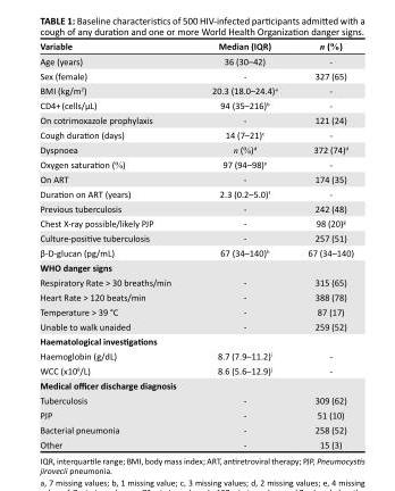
<table><thead><tr><td>Variable</td><td>Median (IQR)</td><td>n (%)</td></tr></thead><tbody><tr><td>Age (years)</td><td>36 (30–42)</td><td>-</td></tr><tr><td>Sex (female)</td><td>-</td><td>327 (65)</td></tr><tr><td>BMI (kg/m<sup>2</sup>)</td><td>20.3 (18.0–24.4)<sup>a</sup></td><td>-</td></tr><tr><td>CD4+ (cells/µL)</td><td>94 (35–216)<sup>b</sup></td><td>-</td></tr><tr><td>On cotrimoxazole prophylaxis</td><td>-</td><td>121 (24)</td></tr><tr><td>Cough duration (days)</td><td>14 (7–21)<sup>c</sup></td><td>-</td></tr><tr><td>Dyspnoea</td><td>n (%)<sup>d</sup></td><td>372 (74)<sup>d</sup></td></tr><tr><td>Oxygen saturation (%)</td><td>97 (94–98)<sup>e</sup></td><td>-</td></tr><tr><td>On ART</td><td>-</td><td>174 (35)</td></tr><tr><td>Duration on ART (years)</td><td>2.3 (0.2–5.0)<sup>f</sup></td><td>-</td></tr><tr><td>Previous tuberculosis</td><td>-</td><td>242 (48)</td></tr><tr><td>Chest X-ray possible/likely PJP</td><td>-</td><td>98 (20)<sup>g</sup></td></tr><tr><td>Culture-positive tuberculosis</td><td>-</td><td>257 (51)</td></tr><tr><td>β-D-glucan (pg/mL)</td><td>67 (34–140)<sup>h</sup></td><td>67 (34–140)</td></tr><tr><td colspan="3">WHO danger signs</td></tr><tr><td>Respiratory Rate &gt; 30 breaths/min</td><td>-</td><td>315 (65)</td></tr><tr><td>Heart Rate &gt; 120 beats/min</td><td>-</td><td>388 (78)</td></tr><tr><td>Temperature &gt; 39 °C</td><td>-</td><td>87 (17)</td></tr><tr><td>Unable to walk unaided</td><td>-</td><td>259 (52)</td></tr><tr><td colspan="3">Haematological investigations</td></tr><tr><td>Haemoglobin (g/dL)</td><td>8.7 (7.9–11.2)<sup>i</sup></td><td>-</td></tr><tr><td>WCC (x10<sup>9</sup>/L)</td><td>8.6 (5.6–12.9)<sup>j</sup></td><td>-</td></tr><tr><td colspan="3">Medical officer discharge diagnosis</td></tr><tr><td>Tuberculosis</td><td>-</td><td>309 (62)</td></tr><tr><td>PJP</td><td>-</td><td>51 (10)</td></tr><tr><td>Bacterial pneumonia</td><td>-</td><td>258 (52)</td></tr><tr><td>Other</td><td>-</td><td>15 (3)</td></tr></tbody></table>